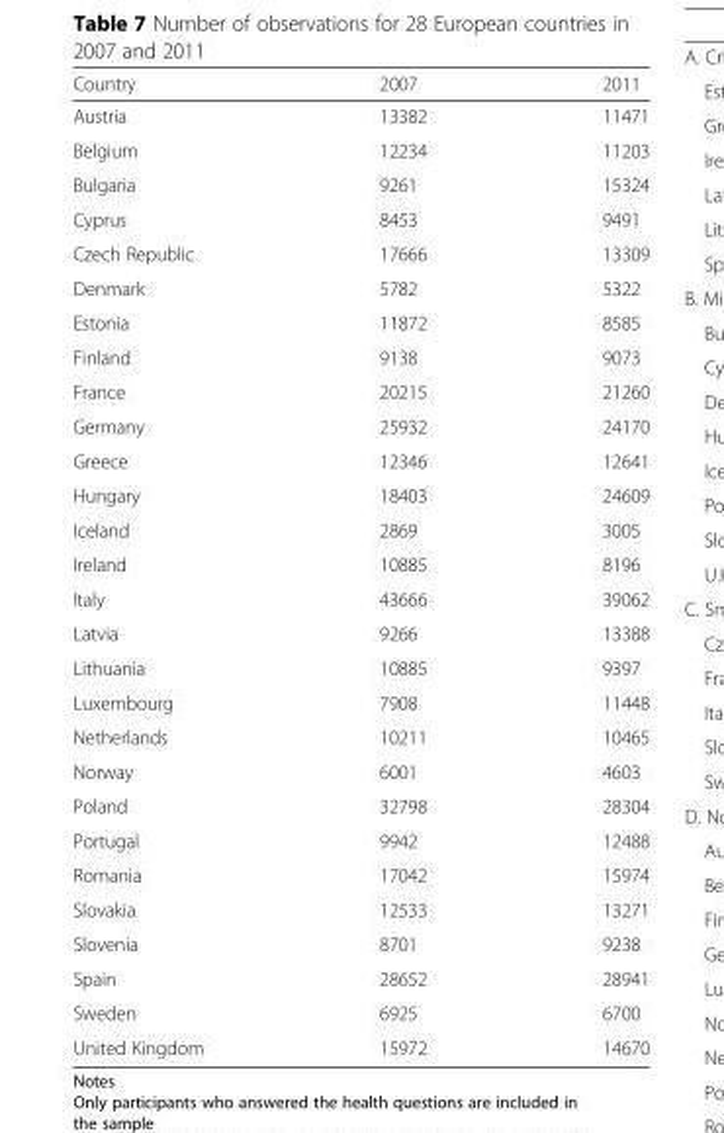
<table><thead><tr><td>Country</td><td>2007</td><td>2011</td></tr></thead><tbody><tr><td>Austria</td><td>13382</td><td>11471</td></tr><tr><td>Belgium</td><td>12234</td><td>11203</td></tr><tr><td>Bulgaria</td><td>9261</td><td>15324</td></tr><tr><td>Cyprus</td><td>8453</td><td>9491</td></tr><tr><td>Czech Republic</td><td>17666</td><td>13309</td></tr><tr><td>Denmark</td><td>5782</td><td>5322</td></tr><tr><td>Estonia</td><td>11872</td><td>8585</td></tr><tr><td>Finland</td><td>9138</td><td>9073</td></tr><tr><td>France</td><td>20215</td><td>21260</td></tr><tr><td>Germany</td><td>25932</td><td>24170</td></tr><tr><td>Greece</td><td>12346</td><td>12641</td></tr><tr><td>Hungary</td><td>18403</td><td>24609</td></tr><tr><td>Iceland</td><td>2869</td><td>3005</td></tr><tr><td>Ireland</td><td>10885</td><td>8196</td></tr><tr><td>Italy</td><td>43666</td><td>39062</td></tr><tr><td>Latvia</td><td>9266</td><td>13388</td></tr><tr><td>Lithuania</td><td>10885</td><td>9397</td></tr><tr><td>Luxembourg</td><td>7908</td><td>11448</td></tr><tr><td>Netherlands</td><td>10211</td><td>10465</td></tr><tr><td>Norway</td><td>6001</td><td>4603</td></tr><tr><td>Poland</td><td>32798</td><td>28304</td></tr><tr><td>Portugal</td><td>9942</td><td>12488</td></tr><tr><td>Romania</td><td>17042</td><td>15974</td></tr><tr><td>Slovakia</td><td>12533</td><td>13271</td></tr><tr><td>Slovenia</td><td>8701</td><td>9238</td></tr><tr><td>Spain</td><td>28652</td><td>28941</td></tr><tr><td>Sweden</td><td>6925</td><td>6700</td></tr><tr><td>United Kingdom</td><td>15972</td><td>14670</td></tr></tbody></table>